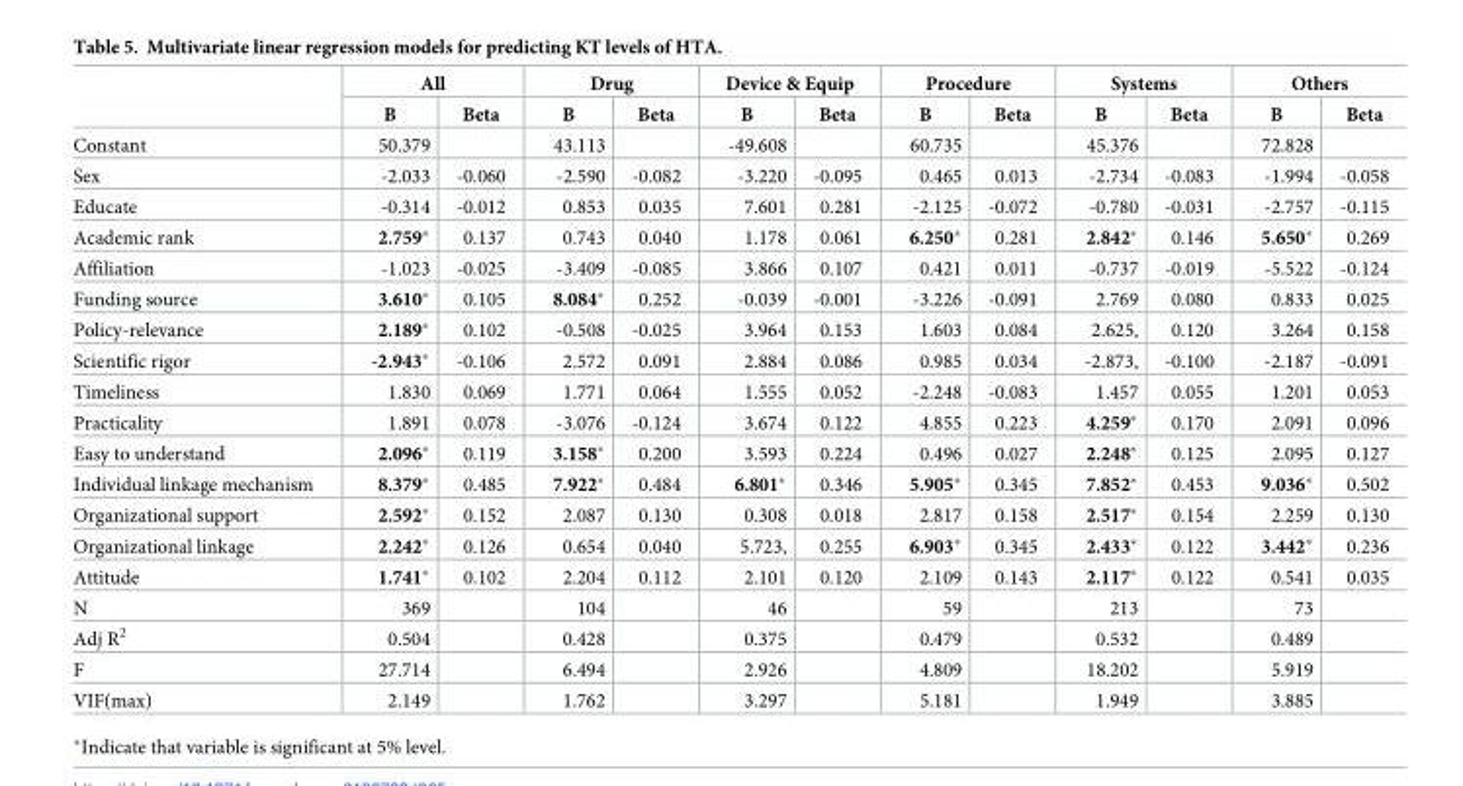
<table><thead><tr><td rowspan="2"></td><td colspan="2">All</td><td colspan="2">Drug</td><td colspan="2">Device &amp; Equip</td><td colspan="2">Procedure</td><td colspan="2">Systems</td><td colspan="2">Others</td></tr><tr><td>B</td><td>Beta</td><td>B</td><td>Beta</td><td>B</td><td>Beta</td><td>B</td><td>Beta</td><td>B</td><td>Beta</td><td>B</td><td>Beta</td></tr></thead><tbody><tr><td>Constant</td><td>50.379</td><td></td><td>43.113</td><td></td><td>-49.608</td><td></td><td>60.735</td><td></td><td>45.376</td><td></td><td>72.828</td><td></td></tr><tr><td>Sex</td><td>-2.033</td><td>-0.060</td><td>-2.590</td><td>-0.082</td><td>-3.220</td><td>-0.095</td><td>0.465</td><td>0.013</td><td>-2.734</td><td>-0.083</td><td>-1.994</td><td>-0.058</td></tr><tr><td>Educate</td><td>-0.314</td><td>-0.012</td><td>0.853</td><td>0.035</td><td>7.601</td><td>0.281</td><td>-2.125</td><td>-0.072</td><td>-0.780</td><td>-0.031</td><td>-2.757</td><td>-0.115</td></tr><tr><td>Academic rank</td><td>2.759*</td><td>0.137</td><td>0.743</td><td>0.040</td><td>1.178</td><td>0.061</td><td>6.250*</td><td>0.281</td><td>2.842*</td><td>0.146</td><td>5.650*</td><td>0.269</td></tr><tr><td>Affiliation</td><td>-1.023</td><td>-0.025</td><td>-3.409</td><td>-0.085</td><td>3.866</td><td>0.107</td><td>0.421</td><td>0.011</td><td>-0.737</td><td>-0.019</td><td>-5.522</td><td>-0.124</td></tr><tr><td>Funding source</td><td>3.610*</td><td>0.105</td><td>8.084*</td><td>0.252</td><td>-0.039</td><td>-0.001</td><td>-3.226</td><td>-0.091</td><td>2.769</td><td>0.080</td><td>0.833</td><td>0.025</td></tr><tr><td>Policy-relevance</td><td>2.189*</td><td>0.102</td><td>-0.508</td><td>-0.025</td><td>3.964</td><td>0.153</td><td>1.603</td><td>0.084</td><td>2.625,</td><td>0.120</td><td>3.264</td><td>0.158</td></tr><tr><td>Scientific rigor</td><td>-2.943*</td><td>-0.106</td><td>2.572</td><td>0.091</td><td>2.884</td><td>0.086</td><td>0.985</td><td>0.034</td><td>-2.873,</td><td>-0.100</td><td>-2.187</td><td>-0.091</td></tr><tr><td>Timeliness</td><td>1.830</td><td>0.069</td><td>1.771</td><td>0.064</td><td>1.555</td><td>0.052</td><td>-2.248</td><td>-0.083</td><td>1.457</td><td>0.055</td><td>1.201</td><td>0.053</td></tr><tr><td>Practicality</td><td>1.891</td><td>0.078</td><td>-3.076</td><td>-0.124</td><td>3.674</td><td>0.122</td><td>4.855</td><td>0.223</td><td>4.259*</td><td>0.170</td><td>2.091</td><td>0.096</td></tr><tr><td>Easy to understand</td><td>2.096*</td><td>0.119</td><td>3.158*</td><td>0.200</td><td>3.593</td><td>0.224</td><td>0.496</td><td>0.027</td><td>2.248*</td><td>0.125</td><td>2.095</td><td>0.127</td></tr><tr><td>Individual linkage mechanism</td><td>8.379*</td><td>0.485</td><td>7.922*</td><td>0.484</td><td>6.801*</td><td>0.346</td><td>5.905*</td><td>0.345</td><td>7.852*</td><td>0.453</td><td>9.036*</td><td>0.502</td></tr><tr><td>Organizational support</td><td>2.592*</td><td>0.152</td><td>2.087</td><td>0.130</td><td>0.308</td><td>0.018</td><td>2.817</td><td>0.158</td><td>2.517*</td><td>0.154</td><td>2.259</td><td>0.130</td></tr><tr><td>Organizational linkage</td><td>2.242*</td><td>0.126</td><td>0.654</td><td>0.040</td><td>5.723,</td><td>0.255</td><td>6.903*</td><td>0.345</td><td>2.433*</td><td>0.122</td><td>3.442*</td><td>0.236</td></tr><tr><td>Attitude</td><td>1.741*</td><td>0.102</td><td>2.204</td><td>0.112</td><td>2.101</td><td>0.120</td><td>2.109</td><td>0.143</td><td>2.117*</td><td>0.122</td><td>0.541</td><td>0.035</td></tr><tr><td>N</td><td>369</td><td></td><td>104</td><td></td><td>46</td><td></td><td>59</td><td></td><td>213</td><td></td><td>73</td><td></td></tr><tr><td>Adj R<sup>2</sup></td><td>0.504</td><td></td><td>0.428</td><td></td><td>0.375</td><td></td><td>0.479</td><td></td><td>0.532</td><td></td><td>0.489</td><td></td></tr><tr><td>F</td><td>27.714</td><td></td><td>6.494</td><td></td><td>2.926</td><td></td><td>4.809</td><td></td><td>18.202</td><td></td><td>5.919</td><td></td></tr><tr><td>VIF(max)</td><td>2.149</td><td></td><td>1.762</td><td></td><td>3.297</td><td></td><td>5.181</td><td></td><td>1.949</td><td></td><td>3.885</td><td></td></tr></tbody></table>